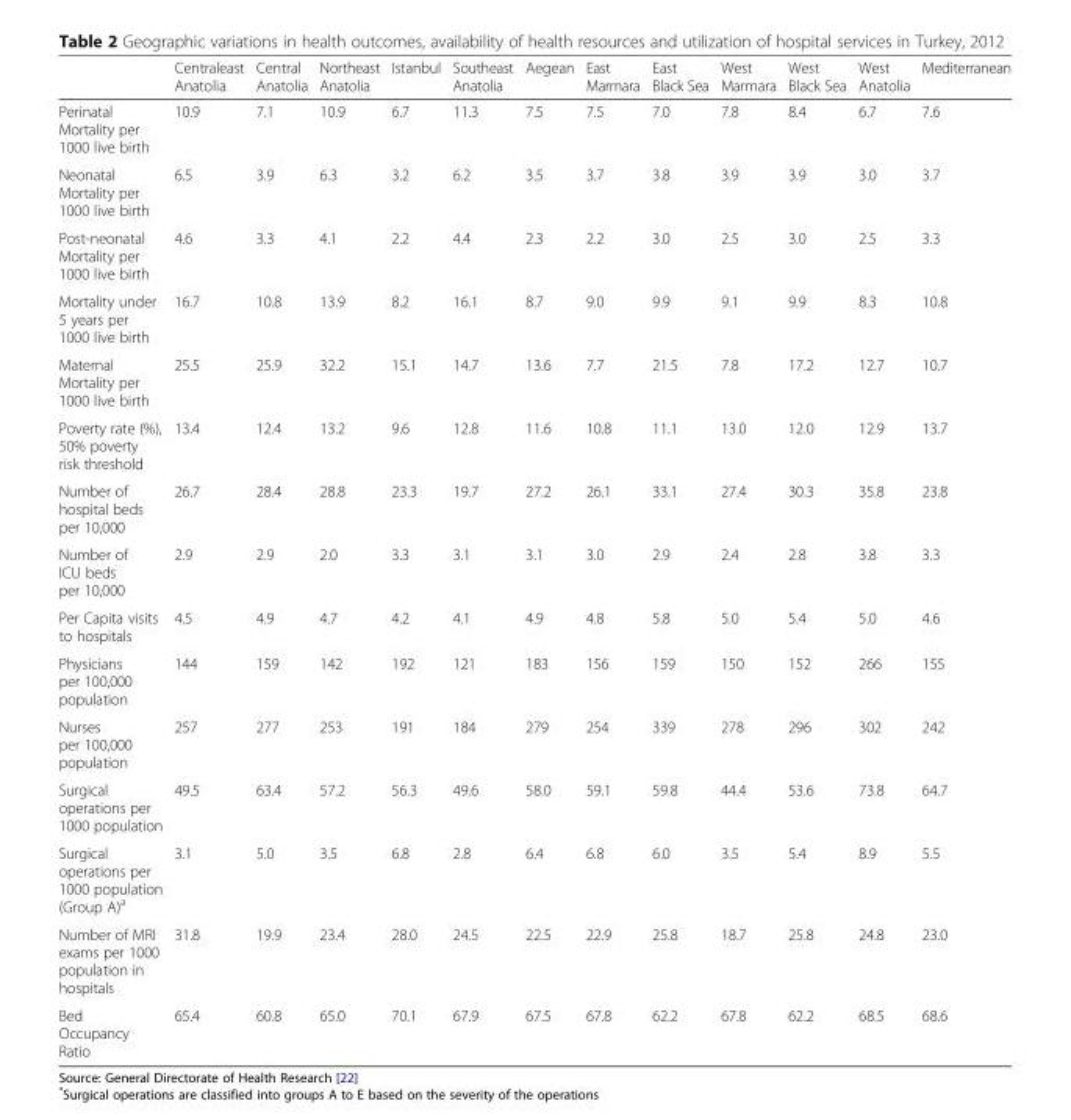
<table><thead><tr><td></td><td>Centraleast Anatolia</td><td>Central Anatolia</td><td>Northeast Anatolia</td><td>Istanbul</td><td>Southeast Anatolia</td><td>Aegean</td><td>East Marmara</td><td>East Black Sea</td><td>West Marmara</td><td>West Black Sea</td><td>West Anatolia</td><td>Mediterranean</td></tr></thead><tbody><tr><td>Perinatal Mortality per 1000 live birth</td><td>10.9</td><td>7.1</td><td>10.9</td><td>6.7</td><td>11.3</td><td>7.5</td><td>7.5</td><td>7.0</td><td>7.8</td><td>8.4</td><td>6.7</td><td>7.6</td></tr><tr><td>Neonatal Mortality per 1000 live birth</td><td>6.5</td><td>3.9</td><td>6.3</td><td>3.2</td><td>6.2</td><td>3.5</td><td>3.7</td><td>3.8</td><td>3.9</td><td>3.9</td><td>3.0</td><td>3.7</td></tr><tr><td>Post-neonatal Mortality per 1000 live birth</td><td>4.6</td><td>3.3</td><td>4.1</td><td>2.2</td><td>4.4</td><td>2.3</td><td>2.2</td><td>3.0</td><td>2.5</td><td>3.0</td><td>2.5</td><td>3.3</td></tr><tr><td>Mortality under 5 years per 1000 live birth</td><td>16.7</td><td>10.8</td><td>13.9</td><td>8.2</td><td>16.1</td><td>8.7</td><td>9.0</td><td>9.9</td><td>9.1</td><td>9.9</td><td>8.3</td><td>10.8</td></tr><tr><td>Maternal Mortality per 1000 live birth</td><td>25.5</td><td>25.9</td><td>32.2</td><td>15.1</td><td>14.7</td><td>13.6</td><td>7.7</td><td>21.5</td><td>7.8</td><td>17.2</td><td>12.7</td><td>10.7</td></tr><tr><td>Poverty rate (%), 50% poverty risk threshold</td><td>13.4</td><td>12.4</td><td>13.2</td><td>9.6</td><td>12.8</td><td>11.6</td><td>10.8</td><td>11.1</td><td>13.0</td><td>12.0</td><td>12.9</td><td>13.7</td></tr><tr><td>Number of hospital beds per 10,000</td><td>26.7</td><td>28.4</td><td>28.8</td><td>23.3</td><td>19.7</td><td>27.2</td><td>26.1</td><td>33.1</td><td>27.4</td><td>30.3</td><td>35.8</td><td>23.8</td></tr><tr><td>Number of ICU beds per 10,000</td><td>2.9</td><td>2.9</td><td>2.0</td><td>3.3</td><td>3.1</td><td>3.1</td><td>3.0</td><td>2.9</td><td>2.4</td><td>2.8</td><td>3.8</td><td>3.3</td></tr><tr><td>Per Capita visits to hospitals</td><td>4.5</td><td>4.9</td><td>4.7</td><td>4.2</td><td>4.1</td><td>4.9</td><td>4.8</td><td>5.8</td><td>5.0</td><td>5.4</td><td>5.0</td><td>4.6</td></tr><tr><td>Physicians per 100,000 population</td><td>144</td><td>159</td><td>142</td><td>192</td><td>121</td><td>183</td><td>156</td><td>159</td><td>150</td><td>152</td><td>266</td><td>155</td></tr><tr><td>Nurses per 100,000 population</td><td>257</td><td>277</td><td>253</td><td>191</td><td>184</td><td>279</td><td>254</td><td>339</td><td>278</td><td>296</td><td>302</td><td>242</td></tr><tr><td>Surgical operations per 1000 population</td><td>49.5</td><td>63.4</td><td>57.2</td><td>56.3</td><td>49.6</td><td>58.0</td><td>59.1</td><td>59.8</td><td>44.4</td><td>53.6</td><td>73.8</td><td>64.7</td></tr><tr><td>Surgical operations per 1000 population (Group A)<sup>a</sup></td><td>3.1</td><td>5.0</td><td>3.5</td><td>6.8</td><td>2.8</td><td>6.4</td><td>6.8</td><td>6.0</td><td>3.5</td><td>5.4</td><td>8.9</td><td>5.5</td></tr><tr><td>Number of MRI exams per 1000 population in hospitals</td><td>31.8</td><td>19.9</td><td>23.4</td><td>28.0</td><td>24.5</td><td>22.5</td><td>22.9</td><td>25.8</td><td>18.7</td><td>25.8</td><td>24.8</td><td>23.0</td></tr><tr><td>Bed Occupancy Ratio</td><td>65.4</td><td>60.8</td><td>65.0</td><td>70.1</td><td>67.9</td><td>67.5</td><td>67.8</td><td>62.2</td><td>67.8</td><td>62.2</td><td>68.5</td><td>68.6</td></tr></tbody></table>